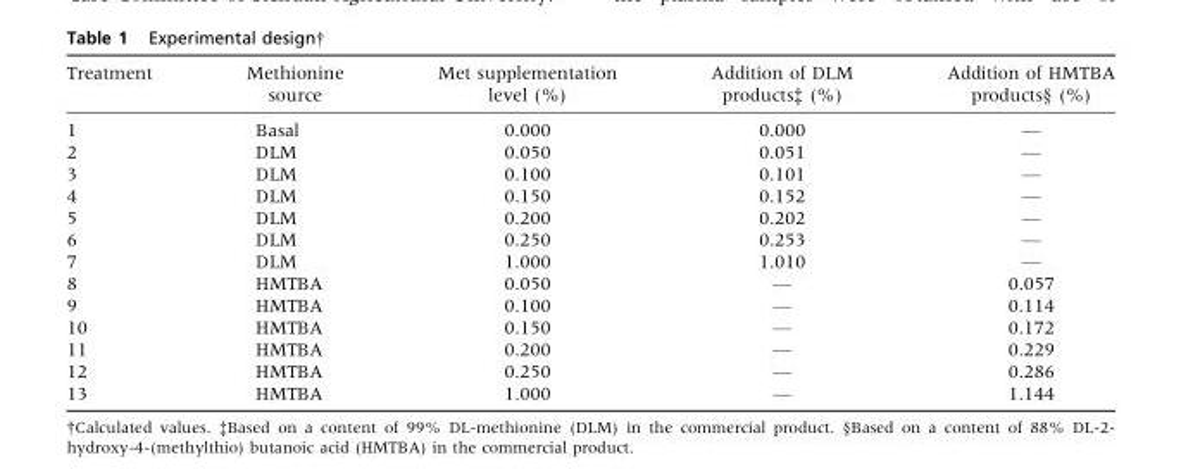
<table><thead><tr><td>Treatment</td><td>Methionine source</td><td>Met supplementation level (%)</td><td>Addition of DLM products‡ (%)</td><td>Addition of HMTBA products§ (%)</td></tr></thead><tbody><tr><td>1</td><td>Basal</td><td>0.000</td><td>0.000</td><td>—</td></tr><tr><td>2</td><td>DLM</td><td>0.050</td><td>0.051</td><td>—</td></tr><tr><td>3</td><td>DLM</td><td>0.100</td><td>0.101</td><td>—</td></tr><tr><td>4</td><td>DLM</td><td>0.150</td><td>0.152</td><td>—</td></tr><tr><td>5</td><td>DLM</td><td>0.200</td><td>0.202</td><td>—</td></tr><tr><td>6</td><td>DLM</td><td>0.250</td><td>0.253</td><td>—</td></tr><tr><td>7</td><td>DLM</td><td>1.000</td><td>1.010</td><td>—</td></tr><tr><td>8</td><td>HMTBA</td><td>0.050</td><td>—</td><td>0.057</td></tr><tr><td>9</td><td>HMTBA</td><td>0.100</td><td>—</td><td>0.114</td></tr><tr><td>10</td><td>HMTBA</td><td>0.150</td><td>—</td><td>0.172</td></tr><tr><td>11</td><td>HMTBA</td><td>0.200</td><td>—</td><td>0.229</td></tr><tr><td>12</td><td>HMTBA</td><td>0.250</td><td>—</td><td>0.286</td></tr><tr><td>13</td><td>HMTBA</td><td>1.000</td><td>—</td><td>1.144</td></tr></tbody></table>